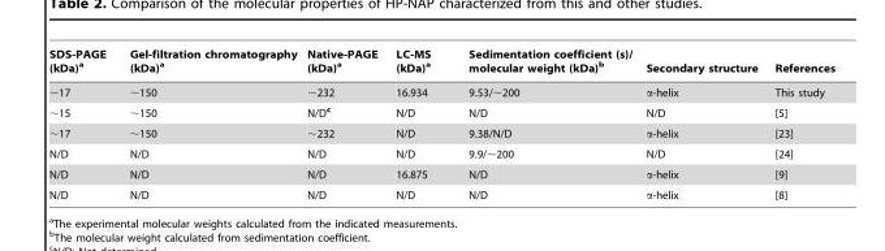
<table><thead><tr><td>SDS-PAGE (kDa)<sup>a</sup></td><td>Gel-filtration chromatography (kDa)<sup>a</sup></td><td>Native-PAGE (kDa)<sup>a</sup></td><td>LC-MS (kDa)<sup>a</sup></td><td>Sedimentation coefficient (s)/ molecular weight (kDa)<sup>b</sup></td><td>Secondary structure</td><td>References</td></tr></thead><tbody><tr><td>∼17</td><td>∼150</td><td>∼232</td><td>16.934</td><td>9.53/∼200</td><td>α-helix</td><td>This study</td></tr><tr><td>∼15</td><td>∼150</td><td>N/D<sup>c</sup></td><td>N/D</td><td>N/D</td><td>N/D</td><td>[5]</td></tr><tr><td>∼17</td><td>∼150</td><td>∼232</td><td>N/D</td><td>9.38/N/D</td><td>α-helix</td><td>[23]</td></tr><tr><td>N/D</td><td>N/D</td><td>N/D</td><td>N/D</td><td>9.9/∼200</td><td>N/D</td><td>[24]</td></tr><tr><td>N/D</td><td>N/D</td><td>N/D</td><td>16.875</td><td>N/D</td><td>α-helix</td><td>[9]</td></tr><tr><td>N/D</td><td>N/D</td><td>N/D</td><td>N/D</td><td>N/D</td><td>α-helix</td><td>[8]</td></tr></tbody></table>